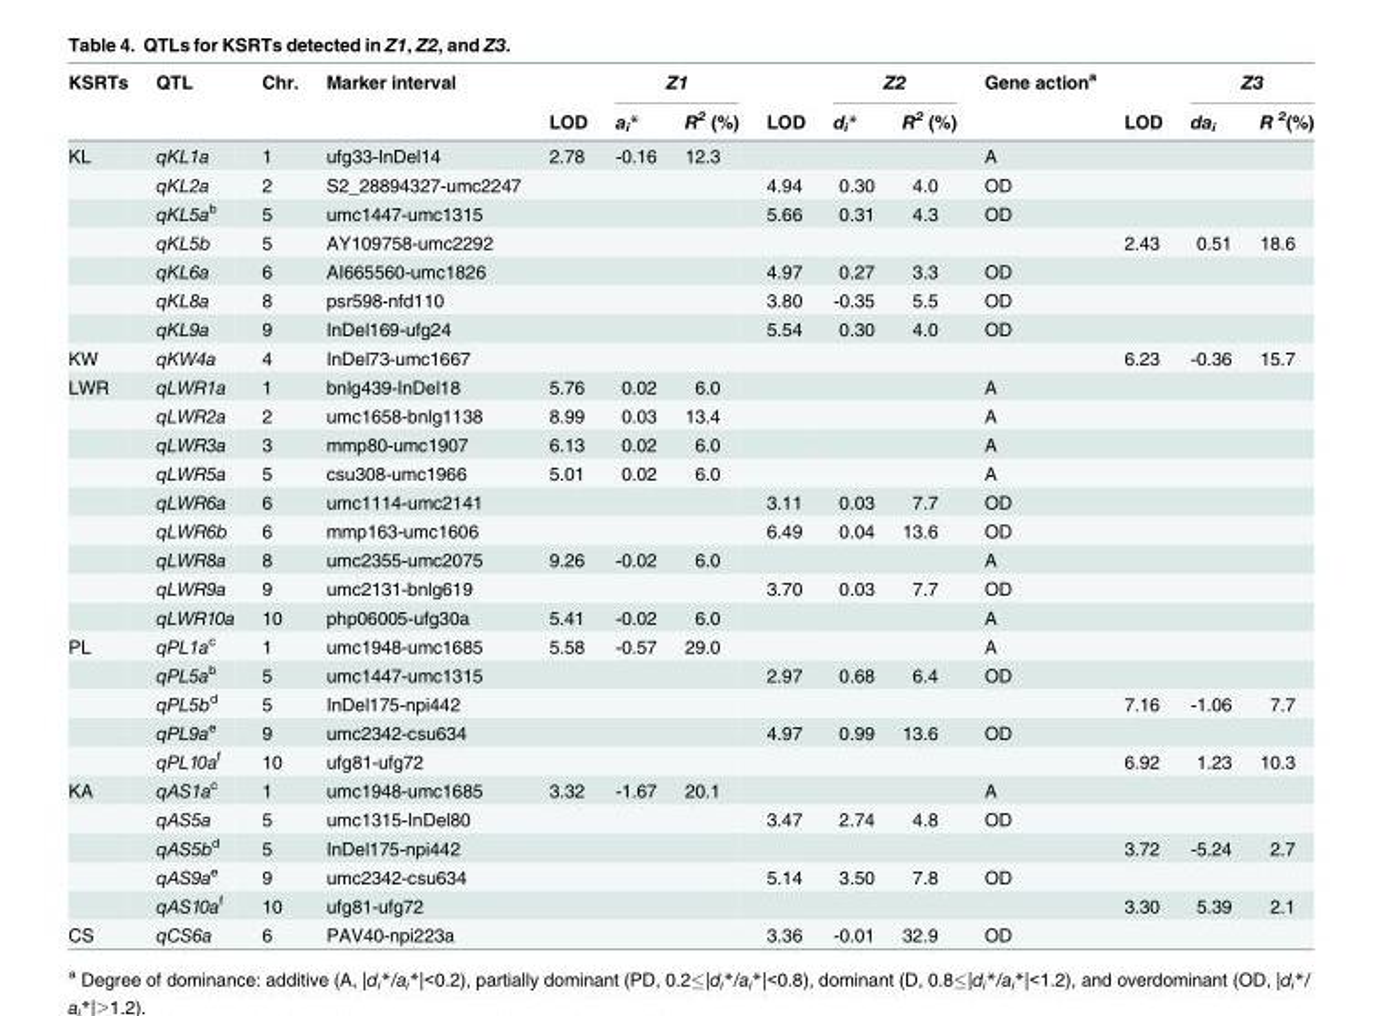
<table><thead><tr><td rowspan="2">KSRTs</td><td rowspan="2">QTL</td><td rowspan="2">Chr.</td><td rowspan="2">Marker interval</td><td rowspan="2">LOD</td><td colspan="2">Z1</td><td rowspan="2">LOD</td><td colspan="2">Z2</td><td rowspan="2">Gene action<sup>a</sup></td><td rowspan="2">LOD</td><td colspan="2">Z3</td></tr><tr><td>a<sub>i</sub>*</td><td>R<sup>2</sup> (%)</td><td>d<sub>i</sub>*</td><td>R<sup>2</sup> (%)</td><td>da<sub>i</sub></td><td>R <sup>2</sup>(%)</td></tr></thead><tbody><tr><td rowspan="7">KL</td><td>qKL1a</td><td>1</td><td>ufg33-InDel14</td><td>2.78</td><td>-0.16</td><td>12.3</td><td></td><td></td><td></td><td>A</td><td></td><td></td><td></td></tr><tr><td>qKL2a</td><td>2</td><td>S2_28894327-umc2247</td><td></td><td></td><td></td><td>4.94</td><td>0.30</td><td>4.0</td><td>OD</td><td></td><td></td><td></td></tr><tr><td>qKL5a<sup>b</sup></td><td>5</td><td>umc1447-umc1315</td><td></td><td></td><td></td><td>5.66</td><td>0.31</td><td>4.3</td><td>OD</td><td></td><td></td><td></td></tr><tr><td>qKL5b</td><td>5</td><td>AY109758-umc2292</td><td></td><td></td><td></td><td></td><td></td><td></td><td></td><td>2.43</td><td>0.51</td><td>18.6</td></tr><tr><td>qKL6a</td><td>6</td><td>AI665560-umc1826</td><td></td><td></td><td></td><td>4.97</td><td>0.27</td><td>3.3</td><td>OD</td><td></td><td></td><td></td></tr><tr><td>qKL8a</td><td>8</td><td>psr598-nfd110</td><td></td><td></td><td></td><td>3.80</td><td>-0.35</td><td>5.5</td><td>OD</td><td></td><td></td><td></td></tr><tr><td>qKL9a</td><td>9</td><td>InDel169-ufg24</td><td></td><td></td><td></td><td>5.54</td><td>0.30</td><td>4.0</td><td>OD</td><td></td><td></td><td></td></tr><tr><td>KW</td><td>qKW4a</td><td>4</td><td>InDel73-umc1667</td><td></td><td></td><td></td><td></td><td></td><td></td><td></td><td>6.23</td><td>-0.36</td><td>15.7</td></tr><tr><td rowspan="9">LWR</td><td>qLWR1a</td><td>1</td><td>bnlg439-InDel18</td><td>5.76</td><td>0.02</td><td>6.0</td><td></td><td></td><td></td><td>A</td><td></td><td></td><td></td></tr><tr><td>qLWR2a</td><td>2</td><td>umc1658-bnlg1138</td><td>8.99</td><td>0.03</td><td>13.4</td><td></td><td></td><td></td><td>A</td><td></td><td></td><td></td></tr><tr><td>qLWR3a</td><td>3</td><td>mmp80-umc1907</td><td>6.13</td><td>0.02</td><td>6.0</td><td></td><td></td><td></td><td>A</td><td></td><td></td><td></td></tr><tr><td>qLWR5a</td><td>5</td><td>csu308-umc1966</td><td>5.01</td><td>0.02</td><td>6.0</td><td></td><td></td><td></td><td>A</td><td></td><td></td><td></td></tr><tr><td>qLWR6a</td><td>6</td><td>umc1114-umc2141</td><td></td><td></td><td></td><td>3.11</td><td>0.03</td><td>7.7</td><td>OD</td><td></td><td></td><td></td></tr><tr><td>qLWR6b</td><td>6</td><td>mmp163-umc1606</td><td></td><td></td><td></td><td>6.49</td><td>0.04</td><td>13.6</td><td>OD</td><td></td><td></td><td></td></tr><tr><td>qLWR8a</td><td>8</td><td>umc2355-umc2075</td><td>9.26</td><td>-0.02</td><td>6.0</td><td></td><td></td><td></td><td>A</td><td></td><td></td><td></td></tr><tr><td>qLWR9a</td><td>9</td><td>umc2131-bnlg619</td><td></td><td></td><td></td><td>3.70</td><td>0.03</td><td>7.7</td><td>OD</td><td></td><td></td><td></td></tr><tr><td>qLWR10a</td><td>10</td><td>php06005-ufg30a</td><td>5.41</td><td>-0.02</td><td>6.0</td><td></td><td></td><td></td><td>A</td><td></td><td></td><td></td></tr><tr><td rowspan="5">PL</td><td>qPL1a<sup>c</sup></td><td>1</td><td>umc1948-umc1685</td><td>5.58</td><td>-0.57</td><td>29.0</td><td></td><td></td><td></td><td>A</td><td></td><td></td><td></td></tr><tr><td>qPL5a<sup>b</sup></td><td>5</td><td>umc1447-umc1315</td><td></td><td></td><td></td><td>2.97</td><td>0.68</td><td>6.4</td><td>OD</td><td></td><td></td><td></td></tr><tr><td>qPL5b<sup>d</sup></td><td>5</td><td>InDel175-npi442</td><td></td><td></td><td></td><td></td><td></td><td></td><td></td><td>7.16</td><td>-1.06</td><td>7.7</td></tr><tr><td>qPL9a<sup>e</sup></td><td>9</td><td>umc2342-csu634</td><td></td><td></td><td></td><td>4.97</td><td>0.99</td><td>13.6</td><td>OD</td><td></td><td></td><td></td></tr><tr><td>qPL10a<sup>f</sup></td><td>10</td><td>ufg81-ufg72</td><td></td><td></td><td></td><td></td><td></td><td></td><td></td><td>6.92</td><td>1.23</td><td>10.3</td></tr><tr><td rowspan="5">KA</td><td>qAS1a<sup>c</sup></td><td>1</td><td>umc1948-umc1685</td><td>3.32</td><td>-1.67</td><td>20.1</td><td></td><td></td><td></td><td>A</td><td></td><td></td><td></td></tr><tr><td>qAS5a</td><td>5</td><td>umc1315-InDel80</td><td></td><td></td><td></td><td>3.47</td><td>2.74</td><td>4.8</td><td>OD</td><td></td><td></td><td></td></tr><tr><td>qAS5b<sup>d</sup></td><td>5</td><td>InDel175-npi442</td><td></td><td></td><td></td><td></td><td></td><td></td><td></td><td>3.72</td><td>-5.24</td><td>2.7</td></tr><tr><td>qAS9a<sup>e</sup></td><td>9</td><td>umc2342-csu634</td><td></td><td></td><td></td><td>5.14</td><td>3.50</td><td>7.8</td><td>OD</td><td></td><td></td><td></td></tr><tr><td>qAS10a<sup>f</sup></td><td>10</td><td>ufg81-ufg72</td><td></td><td></td><td></td><td></td><td></td><td></td><td></td><td>3.30</td><td>5.39</td><td>2.1</td></tr><tr><td>CS</td><td>qCS6a</td><td>6</td><td>PAV40-npi223a</td><td></td><td></td><td></td><td>3.36</td><td>-0.01</td><td>32.9</td><td>OD</td><td></td><td></td><td></td></tr></tbody></table>